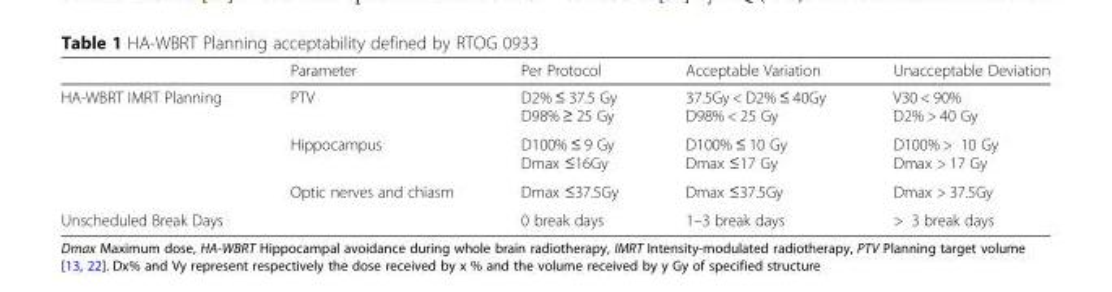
<table><thead><tr><td></td><td>Parameter</td><td>Per Protocol</td><td>Acceptable Variation</td><td>Unacceptable Deviation</td></tr></thead><tbody><tr><td rowspan="3">HA-WBRT IMRT Planning</td><td>PTV</td><td>D2% ≤ 37.5 Gy D98% ≥ 25 Gy</td><td>37.5Gy &lt; D2% ≤ 40Gy D98% &lt; 25 Gy</td><td>V30 &lt; 90% D2% &gt; 40 Gy</td></tr><tr><td>Hippocampus</td><td>D100% ≤ 9 Gy Dmax ≤16Gy</td><td>D100% ≤ 10 Gy Dmax ≤17 Gy</td><td>D100% &gt; 10 Gy Dmax &gt; 17 Gy</td></tr><tr><td>Optic nerves and chiasm</td><td>Dmax ≤37.5Gy</td><td>Dmax ≤37.5Gy</td><td>Dmax &gt; 37.5Gy</td></tr><tr><td>Unscheduled Break Days</td><td></td><td>0 break days</td><td>1–3 break days</td><td>&gt; 3 break days</td></tr></tbody></table>